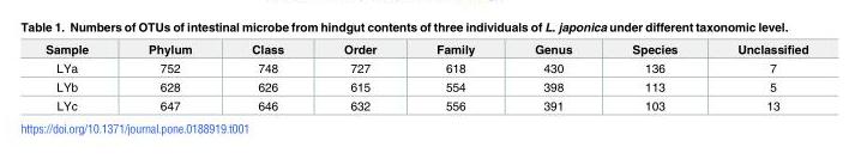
<table><thead><tr><td>Sample</td><td>Phylum</td><td>Class</td><td>Order</td><td>Family</td><td>Genus</td><td>Species</td><td>Unclassified</td></tr></thead><tbody><tr><td>LYa</td><td>752</td><td>748</td><td>727</td><td>618</td><td>430</td><td>136</td><td>7</td></tr><tr><td>LYb</td><td>628</td><td>626</td><td>615</td><td>554</td><td>398</td><td>113</td><td>5</td></tr><tr><td>LYc</td><td>647</td><td>646</td><td>632</td><td>556</td><td>391</td><td>103</td><td>13</td></tr></tbody></table>